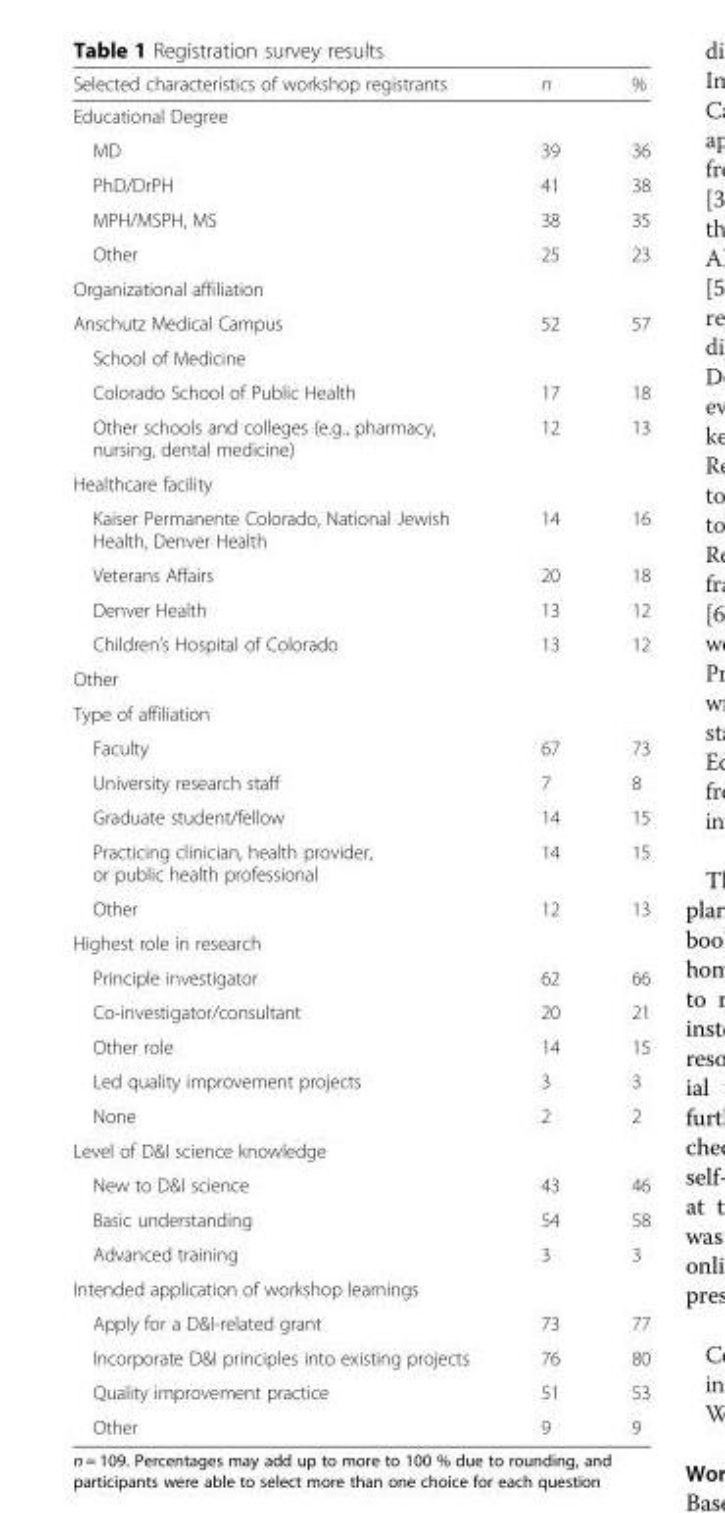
<table><thead><tr><td>Selected characteristics of workshop registrants</td><td>n</td><td>%</td></tr></thead><tbody><tr><td colspan="3">Educational Degree</td></tr><tr><td>MD</td><td>39</td><td>36</td></tr><tr><td>PhD/DrPH</td><td>41</td><td>38</td></tr><tr><td>MPH/MSPH, MS</td><td>38</td><td>35</td></tr><tr><td>Other</td><td>25</td><td>23</td></tr><tr><td colspan="3">Organizational affiliation</td></tr><tr><td>Anschutz Medical Campus</td><td>52</td><td>57</td></tr><tr><td colspan="3">School of Medicine</td></tr><tr><td>Colorado School of Public Health</td><td>17</td><td>18</td></tr><tr><td>Other schools and colleges (e.g., pharmacy, nursing, dental medicine)</td><td>12</td><td>13</td></tr><tr><td colspan="3">Healthcare facility</td></tr><tr><td>Kaiser Permanente Colorado, National Jewish Health, Denver Health</td><td>14</td><td>16</td></tr><tr><td>Veterans Affairs</td><td>20</td><td>18</td></tr><tr><td>Denver Health</td><td>13</td><td>12</td></tr><tr><td>Children’s Hospital of Colorado</td><td>13</td><td>12</td></tr><tr><td colspan="3">Other</td></tr><tr><td colspan="3">Type of affiliation</td></tr><tr><td>Faculty</td><td>67</td><td>73</td></tr><tr><td>University research staff</td><td>7</td><td>8</td></tr><tr><td>Graduate student/fellow</td><td>14</td><td>15</td></tr><tr><td>Practicing clinician, health provider, or public health professional</td><td>14</td><td>15</td></tr><tr><td>Other</td><td>12</td><td>13</td></tr><tr><td colspan="3">Highest role in research</td></tr><tr><td>Principle investigator</td><td>62</td><td>66</td></tr><tr><td>Co-investigator/consultant</td><td>20</td><td>21</td></tr><tr><td>Other role</td><td>14</td><td>15</td></tr><tr><td>Led quality improvement projects</td><td>3</td><td>3</td></tr><tr><td>None</td><td>2</td><td>2</td></tr><tr><td colspan="3">Level of D&amp;I science knowledge</td></tr><tr><td>New to D&amp;I science</td><td>43</td><td>46</td></tr><tr><td>Basic understanding</td><td>54</td><td>58</td></tr><tr><td>Advanced training</td><td>3</td><td>3</td></tr><tr><td colspan="3">Intended application of workshop learnings</td></tr><tr><td>Apply for a D&amp;I-related grant</td><td>73</td><td>77</td></tr><tr><td>Incorporate D&amp;I principles into existing projects</td><td>76</td><td>80</td></tr><tr><td>Quality improvement practice</td><td>51</td><td>53</td></tr><tr><td>Other</td><td>9</td><td>9</td></tr></tbody></table>